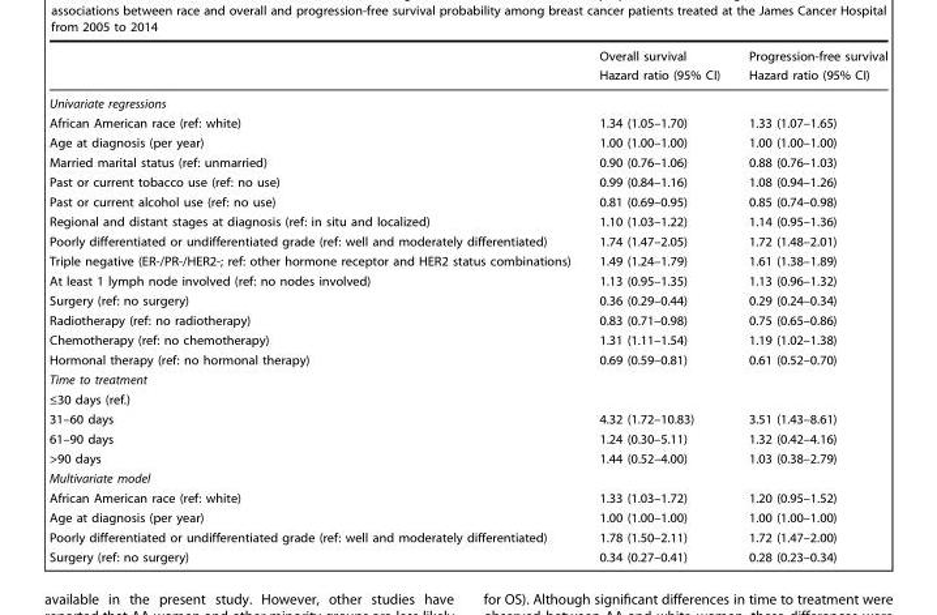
<table><thead><tr><td rowspan="2"></td><td rowspan="2">Overall survival Hazard ratio (95% CI)</td><td rowspan="2">Progression-free survival Hazard ratio (95% CI)</td></tr><tr></tr></thead><tbody><tr><td colspan="3">Univariate regressions</td></tr><tr><td>African American race (ref: white)</td><td>1.34 (1.05–1.70)</td><td>1.33 (1.07–1.65)</td></tr><tr><td>Age at diagnosis (per year)</td><td>1.00 (1.00–1.00)</td><td>1.00 (1.00–1.00)</td></tr><tr><td>Married marital status (ref: unmarried)</td><td>0.90 (0.76–1.06)</td><td>0.88 (0.76–1.03)</td></tr><tr><td>Past or current tobacco use (ref: no use)</td><td>0.99 (0.84–1.16)</td><td>1.08 (0.94–1.26)</td></tr><tr><td>Past or current alcohol use (ref: no use)</td><td>0.81 (0.69–0.95)</td><td>0.85 (0.74–0.98)</td></tr><tr><td>Regional and distant stages at diagnosis (ref: in situ and localized)</td><td>1.10 (1.03–1.22)</td><td>1.14 (0.95–1.36)</td></tr><tr><td>Poorly differentiated or undifferentiated grade (ref: well and moderately differentiated)</td><td>1.74 (1.47–2.05)</td><td>1.72 (1.48–2.01)</td></tr><tr><td>Triple negative (ER-/PR-/HER2-; ref: other hormone receptor and HER2 status combinations)</td><td>1.49 (1.24–1.79)</td><td>1.61 (1.38–1.89)</td></tr><tr><td>At least 1 lymph node involved (ref: no nodes involved)</td><td>1.13 (0.95–1.35)</td><td>1.13 (0.96–1.32)</td></tr><tr><td>Surgery (ref: no surgery)</td><td>0.36 (0.29–0.44)</td><td>0.29 (0.24–0.34)</td></tr><tr><td>Radiotherapy (ref: no radiotherapy)</td><td>0.83 (0.71–0.98)</td><td>0.75 (0.65–0.86)</td></tr><tr><td>Chemotherapy (ref: no chemotherapy)</td><td>1.31 (1.11–1.54)</td><td>1.19 (1.02–1.38)</td></tr><tr><td>Hormonal therapy (ref: no hormonal therapy)</td><td>0.69 (0.59–0.81)</td><td>0.61 (0.52–0.70)</td></tr><tr><td colspan="3">Time to treatment</td></tr><tr><td colspan="3">≤30 days (ref.)</td></tr><tr><td>31–60 days</td><td>4.32 (1.72–10.83)</td><td>3.51 (1.43–8.61)</td></tr><tr><td>61–90 days</td><td>1.24 (0.30–5.11)</td><td>1.32 (0.42–4.16)</td></tr><tr><td>&gt;90 days</td><td>1.44 (0.52–4.00)</td><td>1.03 (0.38–2.79)</td></tr><tr><td colspan="3">Multivariate model</td></tr><tr><td>African American race (ref: white)</td><td>1.33 (1.03–1.72)</td><td>1.20 (0.95–1.52)</td></tr><tr><td>Age at diagnosis (per year)</td><td>1.00 (1.00–1.00)</td><td>1.00 (1.00–1.00)</td></tr><tr><td>Poorly differentiated or undifferentiated grade (ref: well and moderately differentiated)</td><td>1.78 (1.50–2.11)</td><td>1.72 (1.47–2.00)</td></tr><tr><td>Surgery (ref: no surgery)</td><td>0.34 (0.27–0.41)</td><td>0.28 (0.23–0.34)</td></tr></tbody></table>